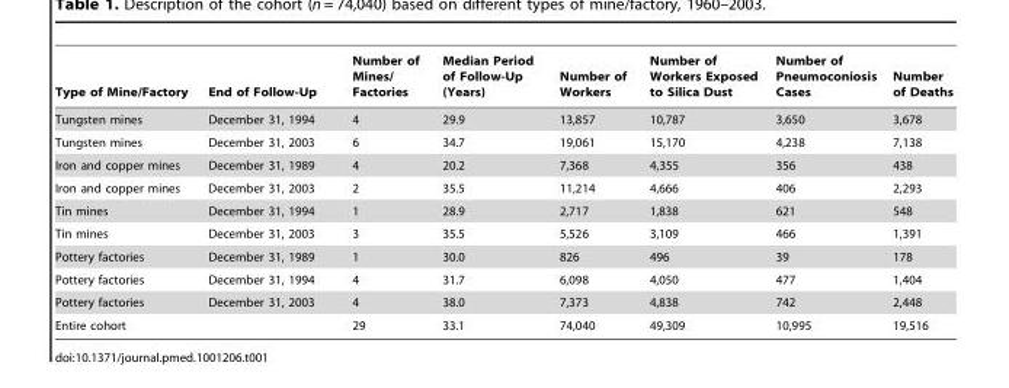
<table><thead><tr><td>Type of Mine/Factory</td><td>End of Follow-Up</td><td>Number of Mines/ Factories</td><td>Median Period of Follow-Up (Years)</td><td>Number of Workers</td><td>Number of Workers Exposed to Silica Dust</td><td>Number of Pneumoconiosis Cases</td><td>Number of Deaths</td></tr></thead><tbody><tr><td>Tungsten mines</td><td>December 31, 1994</td><td>4</td><td>29.9</td><td>13,857</td><td>10,787</td><td>3,650</td><td>3,678</td></tr><tr><td>Tungsten mines</td><td>December 31, 2003</td><td>6</td><td>34.7</td><td>19,061</td><td>15,170</td><td>4,238</td><td>7,138</td></tr><tr><td>Iron and copper mines</td><td>December 31, 1989</td><td>4</td><td>20.2</td><td>7,368</td><td>4,355</td><td>356</td><td>438</td></tr><tr><td>Iron and copper mines</td><td>December 31, 2003</td><td>2</td><td>35.5</td><td>11,214</td><td>4,666</td><td>406</td><td>2,293</td></tr><tr><td>Tin mines</td><td>December 31, 1994</td><td>1</td><td>28.9</td><td>2,717</td><td>1,838</td><td>621</td><td>548</td></tr><tr><td>Tin mines</td><td>December 31, 2003</td><td>3</td><td>35.5</td><td>5,526</td><td>3,109</td><td>466</td><td>1,391</td></tr><tr><td>Pottery factories</td><td>December 31, 1989</td><td>1</td><td>30.0</td><td>826</td><td>496</td><td>39</td><td>178</td></tr><tr><td>Pottery factories</td><td>December 31, 1994</td><td>4</td><td>31.7</td><td>6,098</td><td>4,050</td><td>477</td><td>1,404</td></tr><tr><td>Pottery factories</td><td>December 31, 2003</td><td>4</td><td>38.0</td><td>7,373</td><td>4,838</td><td>742</td><td>2,448</td></tr><tr><td>Entire cohort</td><td></td><td>29</td><td>33.1</td><td>74,040</td><td>49,309</td><td>10,995</td><td>19,516</td></tr></tbody></table>